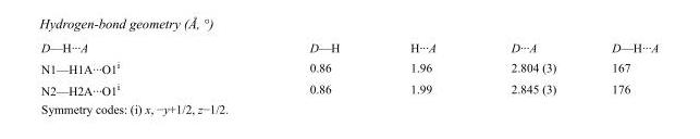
<table><tbody><tr><td>D—H···A</td><td>D—H</td><td>H···A</td><td>D···A</td><td>D—H···A</td></tr><tr><td>N1—H1A···O1<sup>i</sup></td><td>0.86</td><td>1.96</td><td>2.804 (3)</td><td>167</td></tr><tr><td>N2—H2A···O1<sup>i</sup></td><td>0.86</td><td>1.99</td><td>2.845 (3)</td><td>176</td></tr></tbody></table>